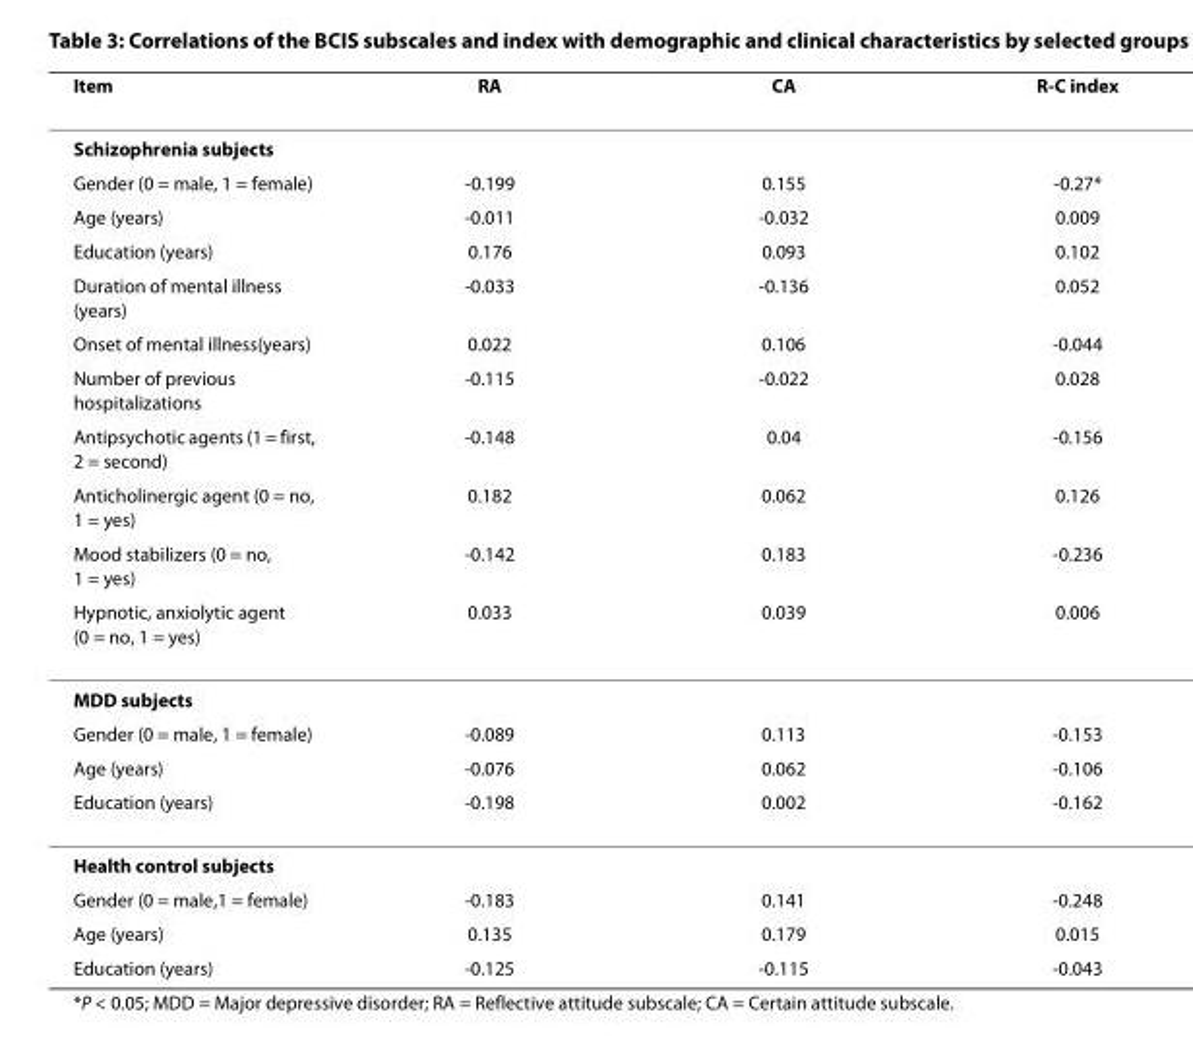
<table><thead><tr><td>Item</td><td>RA</td><td>CA</td><td>R-C index</td></tr></thead><tbody><tr><td colspan="4">Schizophrenia subjects</td></tr><tr><td>Gender (0 = male, 1 = female)</td><td>-0.199</td><td>0.155</td><td>-0.27*</td></tr><tr><td>Age (years)</td><td>-0.011</td><td>-0.032</td><td>0.009</td></tr><tr><td>Education (years)</td><td>0.176</td><td>0.093</td><td>0.102</td></tr><tr><td>Duration of mental illness (years)</td><td>-0.033</td><td>-0.136</td><td>0.052</td></tr><tr><td>Onset of mental illness(years)</td><td>0.022</td><td>0.106</td><td>-0.044</td></tr><tr><td>Number of previous hospitalizations</td><td>-0.115</td><td>-0.022</td><td>0.028</td></tr><tr><td>Antipsychotic agents (1 = first, 2 = second)</td><td>-0.148</td><td>0.04</td><td>-0.156</td></tr><tr><td>Anticholinergic agent (0 = no, 1 = yes)</td><td>0.182</td><td>0.062</td><td>0.126</td></tr><tr><td>Mood stabilizers (0 = no, 1 = yes)</td><td>-0.142</td><td>0.183</td><td>-0.236</td></tr><tr><td>Hypnotic, anxiolytic agent (0 = no, 1 = yes)</td><td>0.033</td><td>0.039</td><td>0.006</td></tr><tr><td colspan="4">MDD subjects</td></tr><tr><td>Gender (0 = male, 1 = female)</td><td>-0.089</td><td>0.113</td><td>-0.153</td></tr><tr><td>Age (years)</td><td>-0.076</td><td>0.062</td><td>-0.106</td></tr><tr><td>Education (years)</td><td>-0.198</td><td>0.002</td><td>-0.162</td></tr><tr><td colspan="4">Health control subjects</td></tr><tr><td>Gender (0 = male,1 = female)</td><td>-0.183</td><td>0.141</td><td>-0.248</td></tr><tr><td>Age (years)</td><td>0.135</td><td>0.179</td><td>0.015</td></tr><tr><td>Education (years)</td><td>-0.125</td><td>-0.115</td><td>-0.043</td></tr></tbody></table>